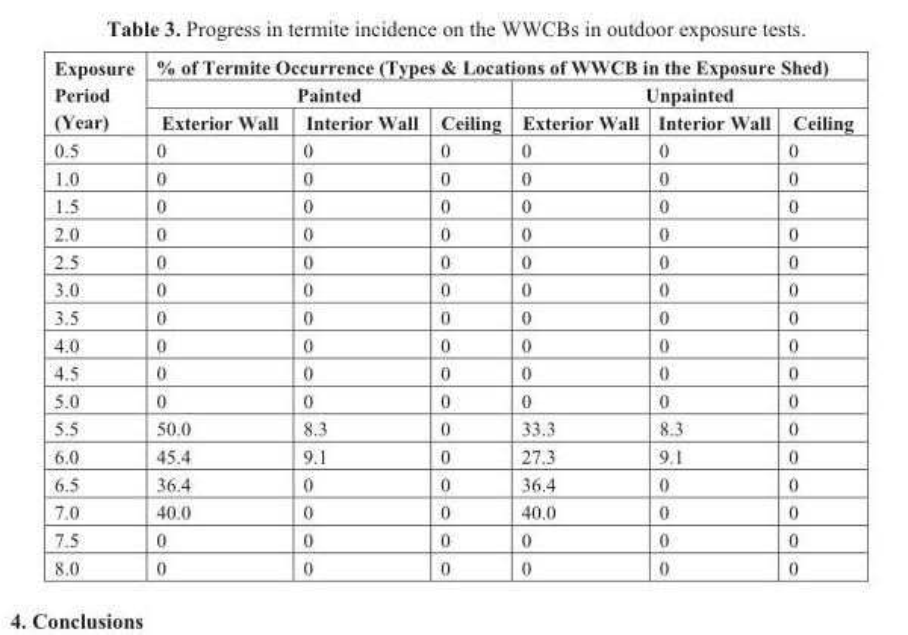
<table><thead><tr><td rowspan="3">Exposure Period (Year)</td><td colspan="6">% of Termite Occurrence (Types &amp; Locations of WWCB in the Exposure Shed)</td></tr><tr><td colspan="3">Painted</td><td colspan="3">Unpainted</td></tr><tr><td>Exterior Wall</td><td>Interior Wall</td><td>Ceiling</td><td>Exterior Wall</td><td>Interior Wall</td><td>Ceiling</td></tr></thead><tbody><tr><td>0.5</td><td>0</td><td>0</td><td>0</td><td>0</td><td>0</td><td>0</td></tr><tr><td>1.0</td><td>0</td><td>0</td><td>0</td><td>0</td><td>0</td><td>0</td></tr><tr><td>1.5</td><td>0</td><td>0</td><td>0</td><td>0</td><td>0</td><td>0</td></tr><tr><td>2.0</td><td>0</td><td>0</td><td>0</td><td>0</td><td>0</td><td>0</td></tr><tr><td>2.5</td><td>0</td><td>0</td><td>0</td><td>0</td><td>0</td><td>0</td></tr><tr><td>3.0</td><td>0</td><td>0</td><td>0</td><td>0</td><td>0</td><td>0</td></tr><tr><td>3.5</td><td>0</td><td>0</td><td>0</td><td>0</td><td>0</td><td>0</td></tr><tr><td>4.0</td><td>0</td><td>0</td><td>0</td><td>0</td><td>0</td><td>0</td></tr><tr><td>4.5</td><td>0</td><td>0</td><td>0</td><td>0</td><td>0</td><td>0</td></tr><tr><td>5.0</td><td>0</td><td>0</td><td>0</td><td>0</td><td>0</td><td>0</td></tr><tr><td>5.5</td><td>50.0</td><td>8.3</td><td>0</td><td>33.3</td><td>8.3</td><td>0</td></tr><tr><td>6.0</td><td>45.4</td><td>9.1</td><td>0</td><td>27.3</td><td>9.1</td><td>0</td></tr><tr><td>6.5</td><td>36.4</td><td>0</td><td>0</td><td>36.4</td><td>0</td><td>0</td></tr><tr><td>7.0</td><td>40.0</td><td>0</td><td>0</td><td>40.0</td><td>0</td><td>0</td></tr><tr><td>7.5</td><td>0</td><td>0</td><td>0</td><td>0</td><td>0</td><td>0</td></tr><tr><td>8.0</td><td>0</td><td>0</td><td>0</td><td>0</td><td>0</td><td>0</td></tr></tbody></table>